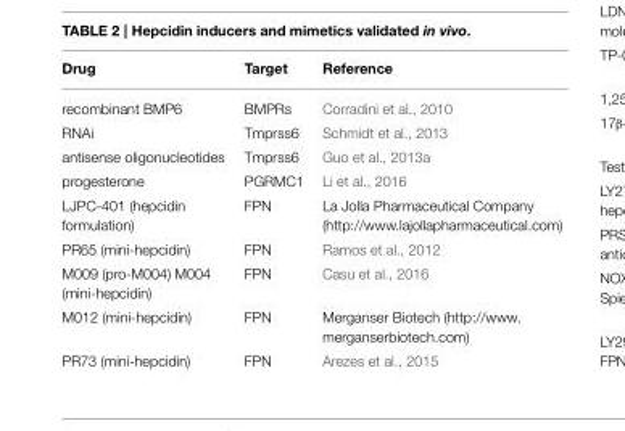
<table><thead><tr><td>Drug</td><td>Target</td><td>Reference</td></tr></thead><tbody><tr><td>recombinant BMP6</td><td>BMPRs</td><td>Corradini et al., 2010</td></tr><tr><td>RNAi</td><td>Tmprss6</td><td>Schmidt et al., 2013</td></tr><tr><td>antisense oligonucleotides</td><td>Tmprss6</td><td>Guo et al., 2013a</td></tr><tr><td>progesterone</td><td>PGRMC1</td><td>Li et al., 2016</td></tr><tr><td>LJPC-401 (hepcidin formulation)</td><td>FPN</td><td>La Jolla Pharmaceutical Company (http://www.lajollapharmaceutical.com)</td></tr><tr><td>PR65 (mini-hepcidin)</td><td>FPN</td><td>Ramos et al., 2012</td></tr><tr><td>M009 (pro-M004) M004 (mini-hepcidin)</td><td>FPN</td><td>Casu et al., 2016</td></tr><tr><td>M012 (mini-hepcidin)</td><td>FPN</td><td>Merganser Biotech (http://www. merganserbiotech.com)</td></tr><tr><td>PR73 (mini-hepcidin)</td><td>FPN</td><td>Arezes et al., 2015</td></tr></tbody></table>